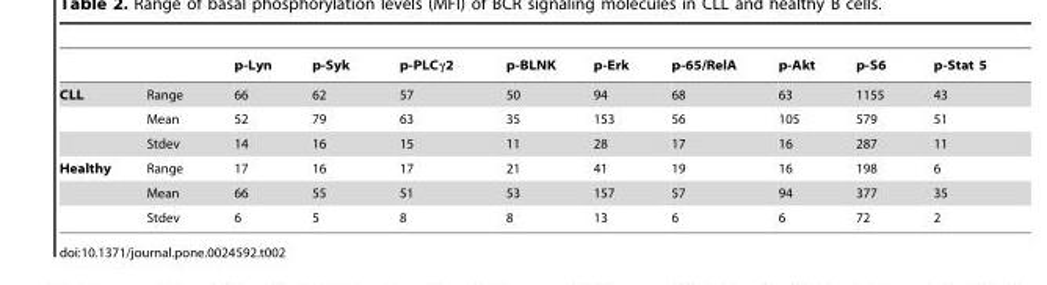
<table><thead><tr><td></td><td></td><td>p-Lyn</td><td>p-Syk</td><td>p-PLCγ2</td><td>p-BLNK</td><td>p-Erk</td><td>p-65/RelA</td><td>p-Akt</td><td>p-S6</td><td>p-Stat 5</td></tr></thead><tbody><tr><td rowspan="3">CLL</td><td>Range</td><td>66</td><td>62</td><td>57</td><td>50</td><td>94</td><td>68</td><td>63</td><td>1155</td><td>43</td></tr><tr><td>Mean</td><td>52</td><td>79</td><td>63</td><td>35</td><td>153</td><td>56</td><td>105</td><td>579</td><td>51</td></tr><tr><td>Stdev</td><td>14</td><td>16</td><td>15</td><td>11</td><td>28</td><td>17</td><td>16</td><td>287</td><td>11</td></tr><tr><td rowspan="3">Healthy</td><td>Range</td><td>17</td><td>16</td><td>17</td><td>21</td><td>41</td><td>19</td><td>16</td><td>198</td><td>6</td></tr><tr><td>Mean</td><td>66</td><td>55</td><td>51</td><td>53</td><td>157</td><td>57</td><td>94</td><td>377</td><td>35</td></tr><tr><td>Stdev</td><td>6</td><td>5</td><td>8</td><td>8</td><td>13</td><td>6</td><td>6</td><td>72</td><td>2</td></tr></tbody></table>